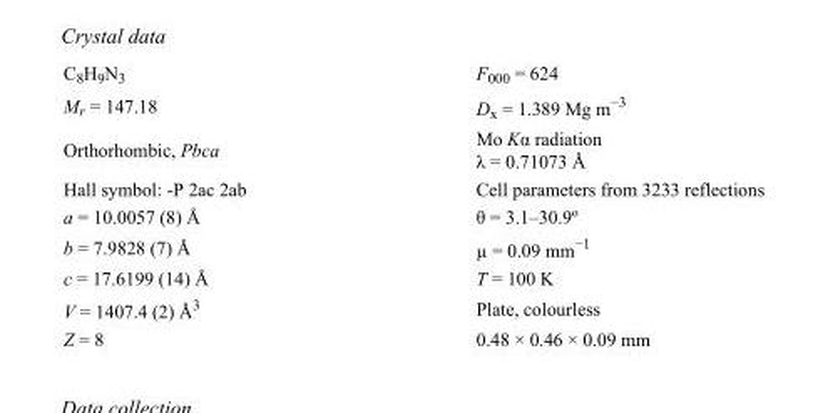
<table><tbody><tr><td>C<sub>8</sub>H<sub>9</sub>N<sub>3</sub></td><td>F000 = 624</td></tr><tr><td>M<sub>r</sub> = 147.18</td><td>D<sub>x</sub> = 1.389 Mg m<sup>−3</sup></td></tr><tr><td>Orthorhombic, Pbca</td><td>Mo Kα radiation λ = 0.71073 Å</td></tr><tr><td>Hall symbol: -P 2ac 2ab</td><td>Cell parameters from 3233 reflections</td></tr><tr><td>a = 10.0057 (8) Å</td><td>θ = 3.1–30.9º</td></tr><tr><td>b = 7.9828 (7) Å</td><td>µ = 0.09 mm<sup>−1</sup></td></tr><tr><td>c = 17.6199 (14) Å</td><td>T = 100 K</td></tr><tr><td>V = 1407.4 (2) Å<sup>3</sup></td><td>Plate, colourless</td></tr><tr><td>Z = 8</td><td>0.48 × 0.46 × 0.09 mm</td></tr></tbody></table>